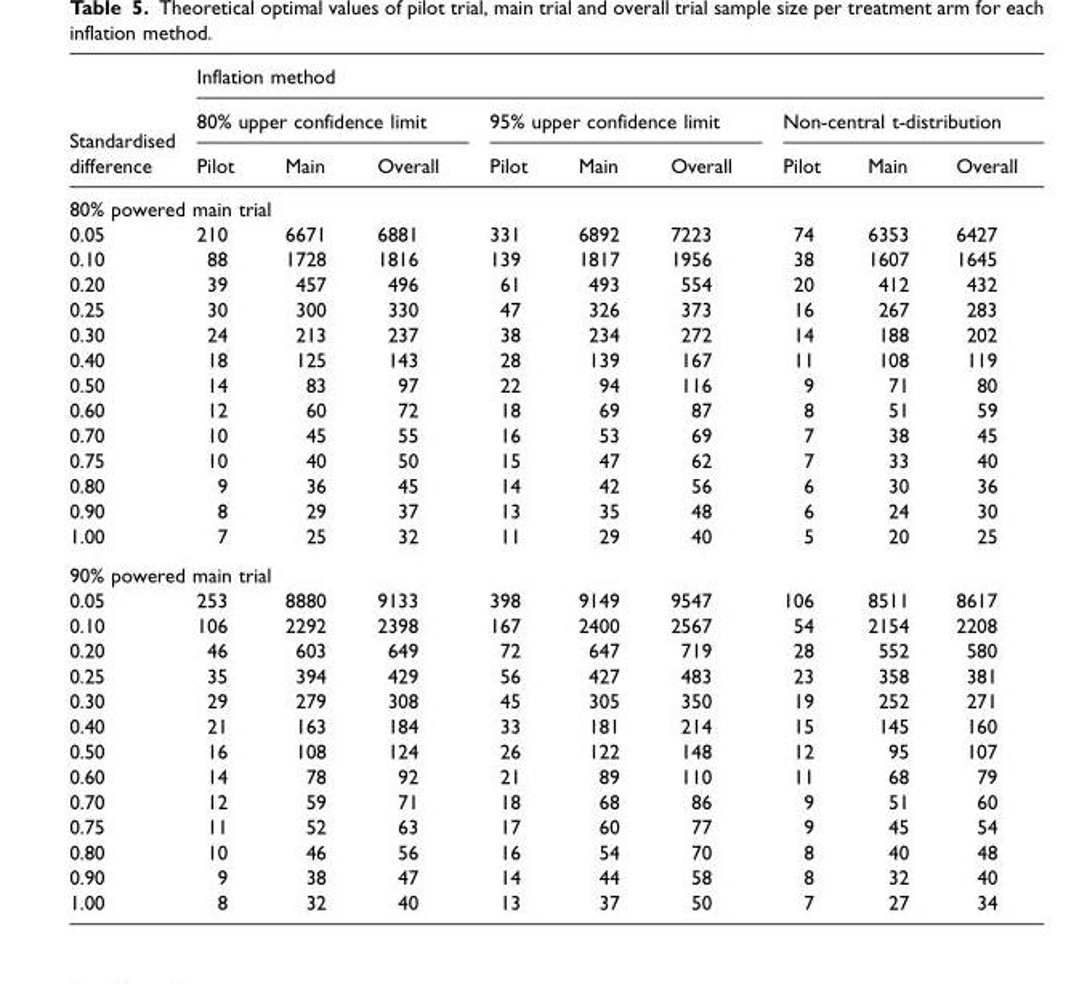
<table><thead><tr><td rowspan="3">Standardised difference</td><td colspan="9">Inflation method</td></tr><tr><td colspan="3">80% upper confidence limit</td><td colspan="3">95% upper confidence limit</td><td colspan="3">Non-central t-distribution</td></tr><tr><td>Pilot</td><td>Main</td><td>Overall</td><td>Pilot</td><td>Main</td><td>Overall</td><td>Pilot</td><td>Main</td><td>Overall</td></tr></thead><tbody><tr><td colspan="10">80% powered main trial</td></tr><tr><td>0.05</td><td>210</td><td>6671</td><td>6881</td><td>331</td><td>6892</td><td>7223</td><td>74</td><td>6353</td><td>6427</td></tr><tr><td>0.10</td><td>88</td><td>1728</td><td>1816</td><td>139</td><td>1817</td><td>1956</td><td>38</td><td>1607</td><td>1645</td></tr><tr><td>0.20</td><td>39</td><td>457</td><td>496</td><td>61</td><td>493</td><td>554</td><td>20</td><td>412</td><td>432</td></tr><tr><td>0.25</td><td>30</td><td>300</td><td>330</td><td>47</td><td>326</td><td>373</td><td>16</td><td>267</td><td>283</td></tr><tr><td>0.30</td><td>24</td><td>213</td><td>237</td><td>38</td><td>234</td><td>272</td><td>14</td><td>188</td><td>202</td></tr><tr><td>0.40</td><td>18</td><td>125</td><td>143</td><td>28</td><td>139</td><td>167</td><td>11</td><td>108</td><td>119</td></tr><tr><td>0.50</td><td>14</td><td>83</td><td>97</td><td>22</td><td>94</td><td>116</td><td>9</td><td>71</td><td>80</td></tr><tr><td>0.60</td><td>12</td><td>60</td><td>72</td><td>18</td><td>69</td><td>87</td><td>8</td><td>51</td><td>59</td></tr><tr><td>0.70</td><td>10</td><td>45</td><td>55</td><td>16</td><td>53</td><td>69</td><td>7</td><td>38</td><td>45</td></tr><tr><td>0.75</td><td>10</td><td>40</td><td>50</td><td>15</td><td>47</td><td>62</td><td>7</td><td>33</td><td>40</td></tr><tr><td>0.80</td><td>9</td><td>36</td><td>45</td><td>14</td><td>42</td><td>56</td><td>6</td><td>30</td><td>36</td></tr><tr><td>0.90</td><td>8</td><td>29</td><td>37</td><td>13</td><td>35</td><td>48</td><td>6</td><td>24</td><td>30</td></tr><tr><td>1.00</td><td>7</td><td>25</td><td>32</td><td>11</td><td>29</td><td>40</td><td>5</td><td>20</td><td>25</td></tr><tr><td colspan="10">90% powered main trial</td></tr><tr><td>0.05</td><td>253</td><td>8880</td><td>9133</td><td>398</td><td>9149</td><td>9547</td><td>106</td><td>8511</td><td>8617</td></tr><tr><td>0.10</td><td>106</td><td>2292</td><td>2398</td><td>167</td><td>2400</td><td>2567</td><td>54</td><td>2154</td><td>2208</td></tr><tr><td>0.20</td><td>46</td><td>603</td><td>649</td><td>72</td><td>647</td><td>719</td><td>28</td><td>552</td><td>580</td></tr><tr><td>0.25</td><td>35</td><td>394</td><td>429</td><td>56</td><td>427</td><td>483</td><td>23</td><td>358</td><td>381</td></tr><tr><td>0.30</td><td>29</td><td>279</td><td>308</td><td>45</td><td>305</td><td>350</td><td>19</td><td>252</td><td>271</td></tr><tr><td>0.40</td><td>21</td><td>163</td><td>184</td><td>33</td><td>181</td><td>214</td><td>15</td><td>145</td><td>160</td></tr><tr><td>0.50</td><td>16</td><td>108</td><td>124</td><td>26</td><td>122</td><td>148</td><td>12</td><td>95</td><td>107</td></tr><tr><td>0.60</td><td>14</td><td>78</td><td>92</td><td>21</td><td>89</td><td>110</td><td>11</td><td>68</td><td>79</td></tr><tr><td>0.70</td><td>12</td><td>59</td><td>71</td><td>18</td><td>68</td><td>86</td><td>9</td><td>51</td><td>60</td></tr><tr><td>0.75</td><td>11</td><td>52</td><td>63</td><td>17</td><td>60</td><td>77</td><td>9</td><td>45</td><td>54</td></tr><tr><td>0.80</td><td>10</td><td>46</td><td>56</td><td>16</td><td>54</td><td>70</td><td>8</td><td>40</td><td>48</td></tr><tr><td>0.90</td><td>9</td><td>38</td><td>47</td><td>14</td><td>44</td><td>58</td><td>8</td><td>32</td><td>40</td></tr><tr><td>1.00</td><td>8</td><td>32</td><td>40</td><td>13</td><td>37</td><td>50</td><td>7</td><td>27</td><td>34</td></tr></tbody></table>